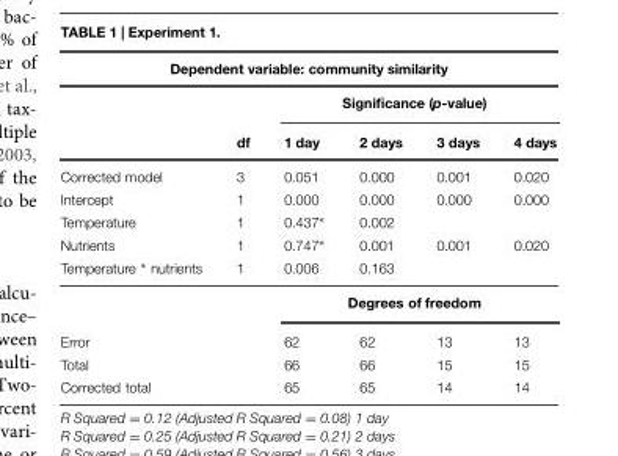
<table><thead><tr><td colspan="6">Dependent variable: community similarity</td></tr><tr><td rowspan="2"></td><td rowspan="2">df</td><td colspan="4">Significance (p-value)</td></tr><tr><td>1 day</td><td>2 days</td><td>3 days</td><td>4 days</td></tr></thead><tbody><tr><td>Corrected model</td><td>3</td><td>0.051</td><td>0.000</td><td>0.001</td><td>0.020</td></tr><tr><td>Intercept</td><td>1</td><td>0.000</td><td>0.000</td><td>0.000</td><td>0.000</td></tr><tr><td>Temperature</td><td>1</td><td>0.437∗</td><td>0.002</td><td></td><td></td></tr><tr><td>Nutrients</td><td>1</td><td>0.747∗</td><td>0.001</td><td>0.001</td><td>0.020</td></tr><tr><td rowspan="2">Temperature ∗ nutrients</td><td>1</td><td>0.006</td><td>0.163</td><td></td><td></td></tr><tr><td></td><td colspan="4">Degrees of freedom</td></tr><tr><td>Error</td><td></td><td>62</td><td>62</td><td>13</td><td>13</td></tr><tr><td>Total</td><td></td><td>66</td><td>66</td><td>15</td><td>15</td></tr><tr><td>Corrected total</td><td></td><td>65</td><td>65</td><td>14</td><td>14</td></tr></tbody></table>